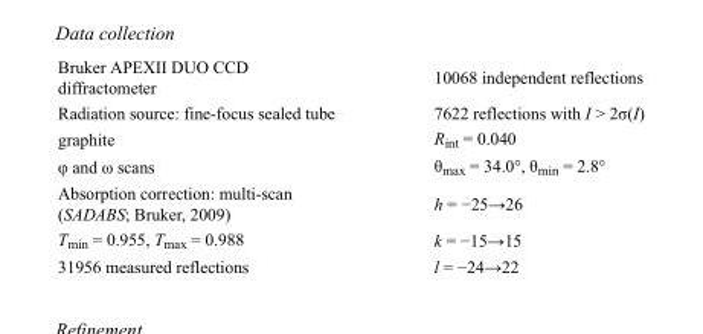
<table><tbody><tr><td>Bruker APEXII DUO CCD diffractometer</td><td>10068 independent reflections</td></tr><tr><td>Radiation source: fine-focus sealed tube</td><td>7622 reflections with I &gt; 2σ(I)</td></tr><tr><td>graphite</td><td>R<sub>int</sub> = 0.040</td></tr><tr><td>φ and ω scans</td><td>θ<sub>max</sub> = 34.0°, θ<sub>min</sub> = 2.8°</td></tr><tr><td>Absorption correction: multi-scan (SADABS; Bruker, 2009)</td><td>h = −25→26</td></tr><tr><td>T<sub>min</sub> = 0.955, T<sub>max</sub> = 0.988</td><td>k = −15→15</td></tr><tr><td>31956 measured reflections</td><td>l = −24→22</td></tr></tbody></table>